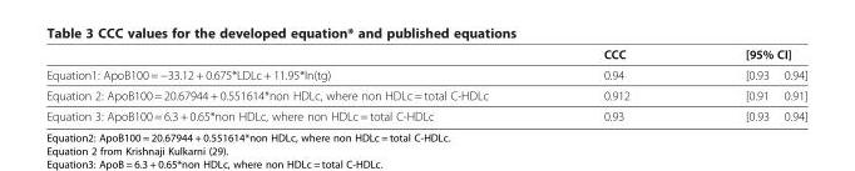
<table><thead><tr><td></td><td>CCC</td><td>[95% CI]</td></tr></thead><tbody><tr><td>Equation1: ApoB100 = −33.12 + 0.675*LDLc + 11.95*ln(tg)</td><td>0.94</td><td>[0.93 0.94]</td></tr><tr><td>Equation 2: ApoB100 = 20.67944 + 0.551614*non HDLc, where non HDLc = total C-HDLc</td><td>0.912</td><td>[0.91 0.91]</td></tr><tr><td>Equation 3: ApoB100 = 6.3 + 0.65*non HDLc, where non HDLc = total C-HDLc</td><td>0.93</td><td>[0.93 0.94]</td></tr></tbody></table>